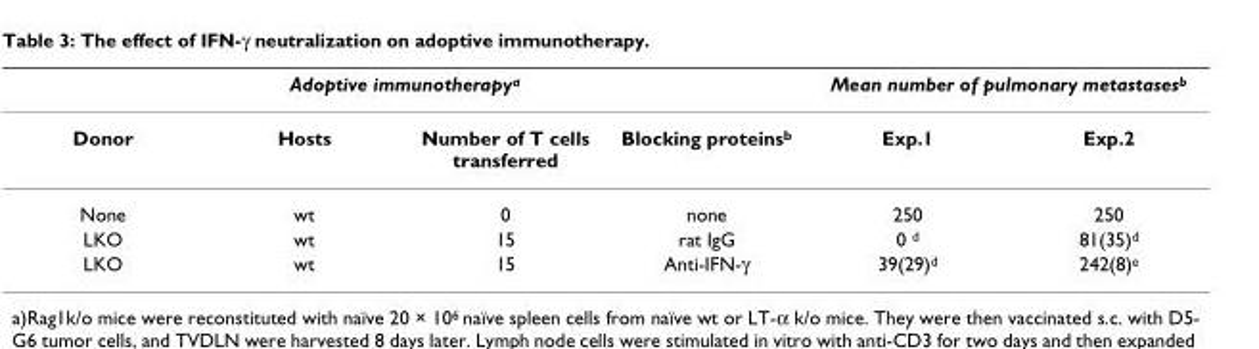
<table><thead><tr><td colspan="4">Adoptive immunotherapy<sup>a</sup></td><td colspan="2">Mean number of pulmonary metastases<sup>b</sup></td></tr><tr><td>Donor</td><td>Hosts</td><td>Number of T cells transferred</td><td>Blocking proteins<sup>b</sup></td><td>Exp.1</td><td>Exp.2</td></tr></thead><tbody><tr><td>None</td><td>wt</td><td>0</td><td>none</td><td>250</td><td>250</td></tr><tr><td>LKO</td><td>wt</td><td>15</td><td>rat IgG</td><td>0 <sup>d</sup></td><td>81(35)<sup>d</sup></td></tr><tr><td>LKO</td><td>wt</td><td>15</td><td>Anti-IFN-γ</td><td>39(29)<sup>d</sup></td><td>242(8)<sup>e</sup></td></tr></tbody></table>